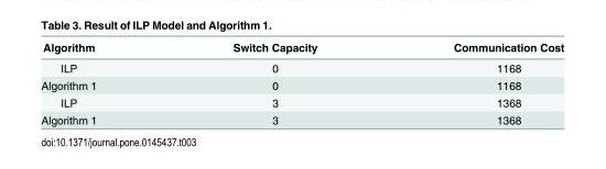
<table><thead><tr><td>Algorithm</td><td>Switch Capacity</td><td>Communication Cost</td></tr></thead><tbody><tr><td>ILP</td><td>0</td><td>1168</td></tr><tr><td>Algorithm 1</td><td>0</td><td>1168</td></tr><tr><td>ILP</td><td>3</td><td>1368</td></tr><tr><td>Algorithm 1</td><td>3</td><td>1368</td></tr></tbody></table>